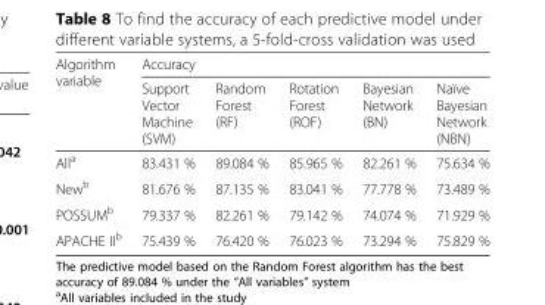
<table><thead><tr><td rowspan="2">Algorithm variable</td><td colspan="5">Accuracy</td></tr><tr><td>Support Vector Machine (SVM)</td><td>Random Forest (RF)</td><td>Rotation Forest (ROF)</td><td>Bayesian Network (BN)</td><td>Naïve Bayesian Network (NBN)</td></tr></thead><tbody><tr><td>All<sup>a</sup></td><td>83.431 %</td><td>89.084 %</td><td>85.965 %</td><td>82.261 %</td><td>75.634 %</td></tr><tr><td>New<sup>b</sup></td><td>81.676 %</td><td>87.135 %</td><td>83.041 %</td><td>77.778 %</td><td>73.489 %</td></tr><tr><td>POSSUM<sup>b</sup></td><td>79.337 %</td><td>82.261 %</td><td>79.142 %</td><td>74.074 %</td><td>71.929 %</td></tr><tr><td>APACHE II<sup>b</sup></td><td>75.439 %</td><td>76.420 %</td><td>76.023 %</td><td>73.294 %</td><td>75.829 %</td></tr></tbody></table>